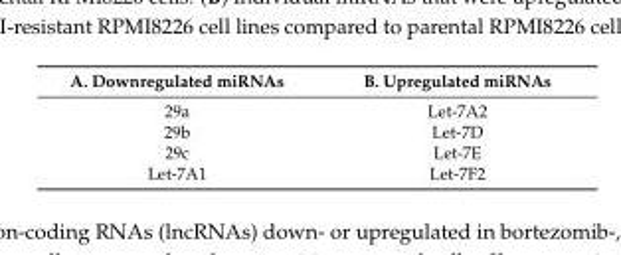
<table><thead><tr><td>A. Downregulated miRNAs</td><td>B. Upregulated miRNAs</td></tr></thead><tbody><tr><td>29a</td><td>Let-7A2</td></tr><tr><td>29b</td><td>Let-7D</td></tr><tr><td>29c</td><td>Let-7E</td></tr><tr><td>Let-7A1</td><td>Let-7F2</td></tr></tbody></table>